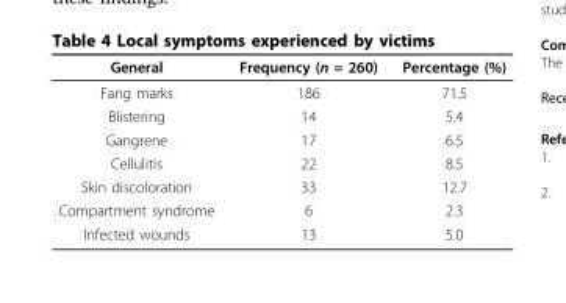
<table><thead><tr><td>General</td><td>Frequency (n = 260)</td><td>Percentage (%)</td></tr></thead><tbody><tr><td>Fang marks</td><td>186</td><td>71.5</td></tr><tr><td>Blistering</td><td>14</td><td>5.4</td></tr><tr><td>Gangrene</td><td>17</td><td>6.5</td></tr><tr><td>Cellulitis</td><td>22</td><td>8.5</td></tr><tr><td>Skin discoloration</td><td>33</td><td>12.7</td></tr><tr><td>Compartment syndrome</td><td>6</td><td>2.3</td></tr><tr><td>Infected wounds</td><td>13</td><td>5.0</td></tr></tbody></table>